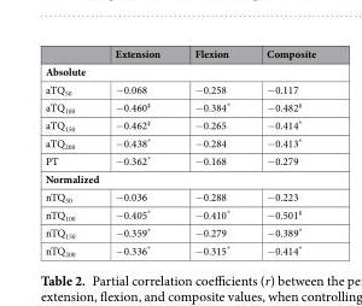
<table><thead><tr><td></td><td>Extension</td><td>Flexion</td><td>Composite</td></tr></thead><tbody><tr><td colspan="4">Absolute</td></tr><tr><td>aTQ<sub>50</sub></td><td>−0.068</td><td>−0.258</td><td>−0.117</td></tr><tr><td>aTQ<sub>100</sub></td><td>−0.460<sup>‡</sup></td><td>−0.384*</td><td>−0.482<sup>‡</sup></td></tr><tr><td>aTQ<sub>150</sub></td><td>−0.462<sup>‡</sup></td><td>−0.265</td><td>−0.414*</td></tr><tr><td>aTQ<sub>200</sub></td><td>−0.438*</td><td>−0.284</td><td>−0.413*</td></tr><tr><td>PT</td><td>−0.362*</td><td>−0.168</td><td>−0.279</td></tr><tr><td colspan="4">Normalized</td></tr><tr><td>nTQ<sub>50</sub></td><td>−0.036</td><td>−0.288</td><td>−0.223</td></tr><tr><td>nTQ<sub>100</sub></td><td>−0.405*</td><td>−0.410*</td><td>−0.501<sup>‡</sup></td></tr><tr><td>nTQ<sub>150</sub></td><td>−0.359*</td><td>−0.279</td><td>−0.389*</td></tr><tr><td>nTQ<sub>200</sub></td><td>−0.336*</td><td>−0.315*</td><td>−0.414*</td></tr></tbody></table>